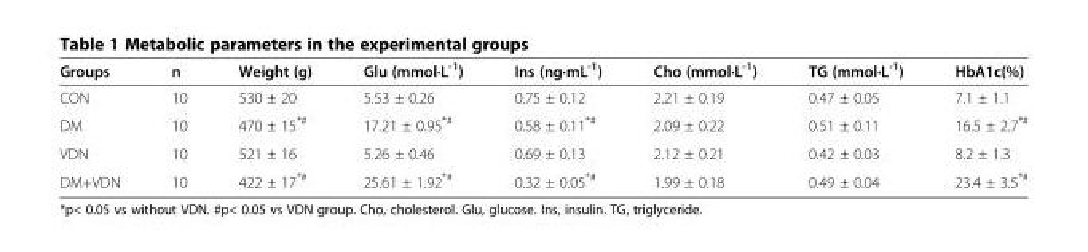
<table><thead><tr><td>Groups</td><td>n</td><td>Weight (g)</td><td>Glu (mmol·L<sup>-1</sup>)</td><td>Ins (ng·mL<sup>-1</sup>)</td><td>Cho (mmol·L<sup>-1</sup>)</td><td>TG (mmol·L<sup>-1</sup>)</td><td>HbA1c(%)</td></tr></thead><tbody><tr><td>CON</td><td>10</td><td>530 ± 20</td><td>5.53 ± 0.26</td><td>0.75 ± 0.12</td><td>2.21 ± 0.19</td><td>0.47 ± 0.05</td><td>7.1 ± 1.1</td></tr><tr><td>DM</td><td>10</td><td>470 ± 15<sup>*#</sup></td><td>17.21 ± 0.95<sup>*#</sup></td><td>0.58 ± 0.11<sup>*#</sup></td><td>2.09 ± 0.22</td><td>0.51 ± 0.11</td><td>16.5 ± 2.7<sup>*#</sup></td></tr><tr><td>VDN</td><td>10</td><td>521 ± 16</td><td>5.26 ± 0.46</td><td>0.69 ± 0.13</td><td>2.12 ± 0.21</td><td>0.42 ± 0.03</td><td>8.2 ± 1.3</td></tr><tr><td>DM+VDN</td><td>10</td><td>422 ± 17<sup>*#</sup></td><td>25.61 ± 1.92<sup>*#</sup></td><td>0.32 ± 0.05<sup>*#</sup></td><td>1.99 ± 0.18</td><td>0.49 ± 0.04</td><td>23.4 ± 3.5<sup>*#</sup></td></tr></tbody></table>